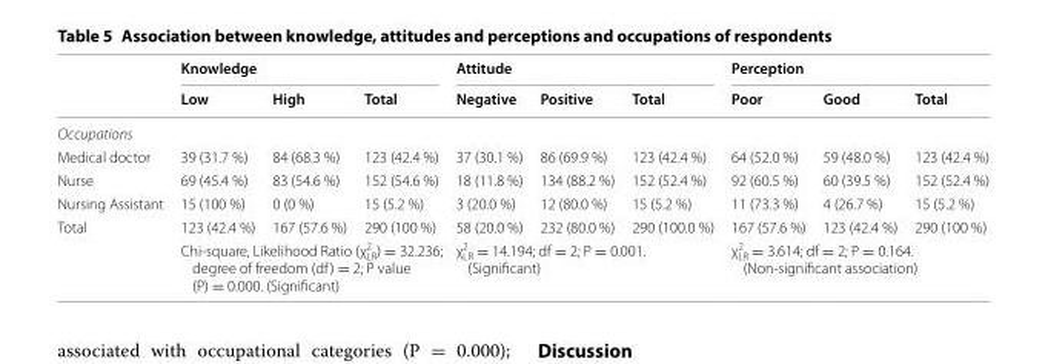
<table><thead><tr><td rowspan="2"></td><td colspan="3">Knowledge</td><td colspan="3">Attitude</td><td colspan="3">Perception</td></tr><tr><td>Low</td><td>High</td><td>Total</td><td>Negative</td><td>Positive</td><td>Total</td><td>Poor</td><td>Good</td><td>Total</td></tr></thead><tbody><tr><td colspan="10">Occupations</td></tr><tr><td>Medical doctor</td><td>39 (31.7 %)</td><td>84 (68.3 %)</td><td>123 (42.4 %)</td><td>37 (30.1 %)</td><td>86 (69.9 %)</td><td>123 (42.4 %)</td><td>64 (52.0 %)</td><td>59 (48.0 %)</td><td>123 (42.4 %)</td></tr><tr><td>Nurse</td><td>69 (45.4 %)</td><td>83 (54.6 %)</td><td>152 (54.6 %)</td><td>18 (11.8 %)</td><td>134 (88.2 %)</td><td>152 (52.4 %)</td><td>92 (60.5 %)</td><td>60 (39.5 %)</td><td>152 (52.4 %)</td></tr><tr><td>Nursing Assistant</td><td>15 (100 %)</td><td>0 (0 %)</td><td>15 (5.2 %)</td><td>3 (20.0 %)</td><td>12 (80.0 %)</td><td>15 (5.2 %)</td><td>11 (73.3 %)</td><td>4 (26.7 %)</td><td>15 (5.2 %)</td></tr><tr><td rowspan="2">Total</td><td>123 (42.4 %)</td><td>167 (57.6 %)</td><td>290 (100 %)</td><td>58 (20.0 %)</td><td>232 (80.0 %)</td><td>290 (100.0 %)</td><td>167 (57.6 %)</td><td>123 (42.4 %)</td><td>290 (100 %)</td></tr><tr><td colspan="3">Chi-square, Likelihood Ratio (χ2 LR) = 32.236; degree of freedom (df) = 2; P value (P) = 0.000. (Significant)</td><td colspan="3">χ2 LR = 14.194; df = 2; P = 0.001. (Significant)</td><td colspan="3">χ2 LR = 3.614; df = 2; P = 0.164. (Non-significant association)</td></tr></tbody></table>